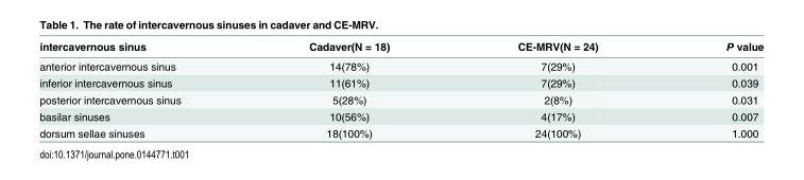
<table><thead><tr><td>intercavernous sinus</td><td>Cadaver(N = 18)</td><td>CE-MRV(N = 24)</td><td>P value</td></tr></thead><tbody><tr><td>anterior intercavernous sinus</td><td>14(78%)</td><td>7(29%)</td><td>0.001</td></tr><tr><td>inferior intercavernous sinus</td><td>11(61%)</td><td>7(29%)</td><td>0.039</td></tr><tr><td>posterior intercavernous sinus</td><td>5(28%)</td><td>2(8%)</td><td>0.031</td></tr><tr><td>basilar sinuses</td><td>10(56%)</td><td>4(17%)</td><td>0.007</td></tr><tr><td>dorsum sellae sinuses</td><td>18(100%)</td><td>24(100%)</td><td>1.000</td></tr></tbody></table>